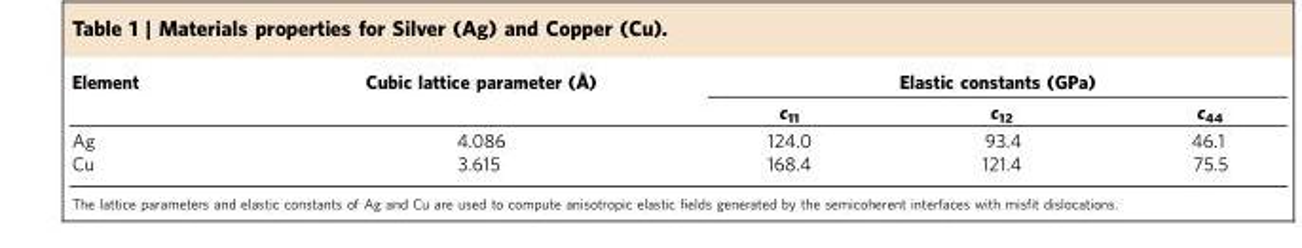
<table><thead><tr><td rowspan="2">Element</td><td rowspan="2">Cubic lattice parameter (Å)</td><td colspan="3">Elastic constants (GPa)</td></tr><tr><td>c<sub>11</sub></td><td>c<sub>12</sub></td><td>c<sub>44</sub></td></tr></thead><tbody><tr><td>Ag</td><td>4.086</td><td>124.0</td><td>93.4</td><td>46.1</td></tr><tr><td>Cu</td><td>3.615</td><td>168.4</td><td>121.4</td><td>75.5</td></tr></tbody></table>